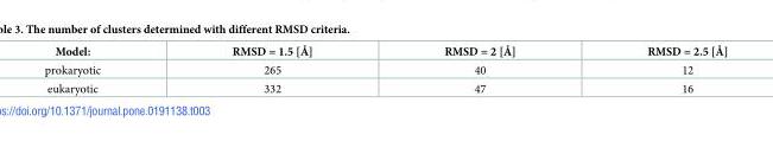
<table><thead><tr><td>Model:</td><td>RMSD = 1.5 [Å]</td><td>RMSD = 2 [Å]</td><td>RMSD = 2.5 [Å]</td></tr></thead><tbody><tr><td>prokaryotic</td><td>265</td><td>40</td><td>12</td></tr><tr><td>eukaryotic</td><td>332</td><td>47</td><td>16</td></tr></tbody></table>